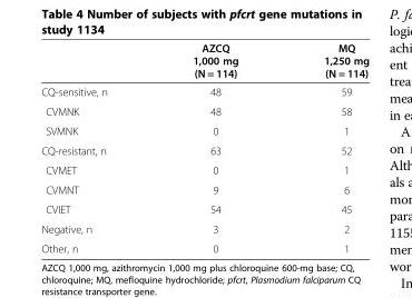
<table><thead><tr><td></td><td>AZCQ 1,000 mg (N = 114)</td><td>MQ 1,250 mg (N = 114)</td></tr></thead><tbody><tr><td>CQ-sensitive, n</td><td>48</td><td>59</td></tr><tr><td>CVMNK</td><td>48</td><td>58</td></tr><tr><td>SVMNK</td><td>0</td><td>1</td></tr><tr><td>CQ-resistant, n</td><td>63</td><td>52</td></tr><tr><td>CVMET</td><td>0</td><td>1</td></tr><tr><td>CVMNT</td><td>9</td><td>6</td></tr><tr><td>CVIET</td><td>54</td><td>45</td></tr><tr><td>Negative, n</td><td>3</td><td>2</td></tr><tr><td>Other, n</td><td>0</td><td>1</td></tr></tbody></table>